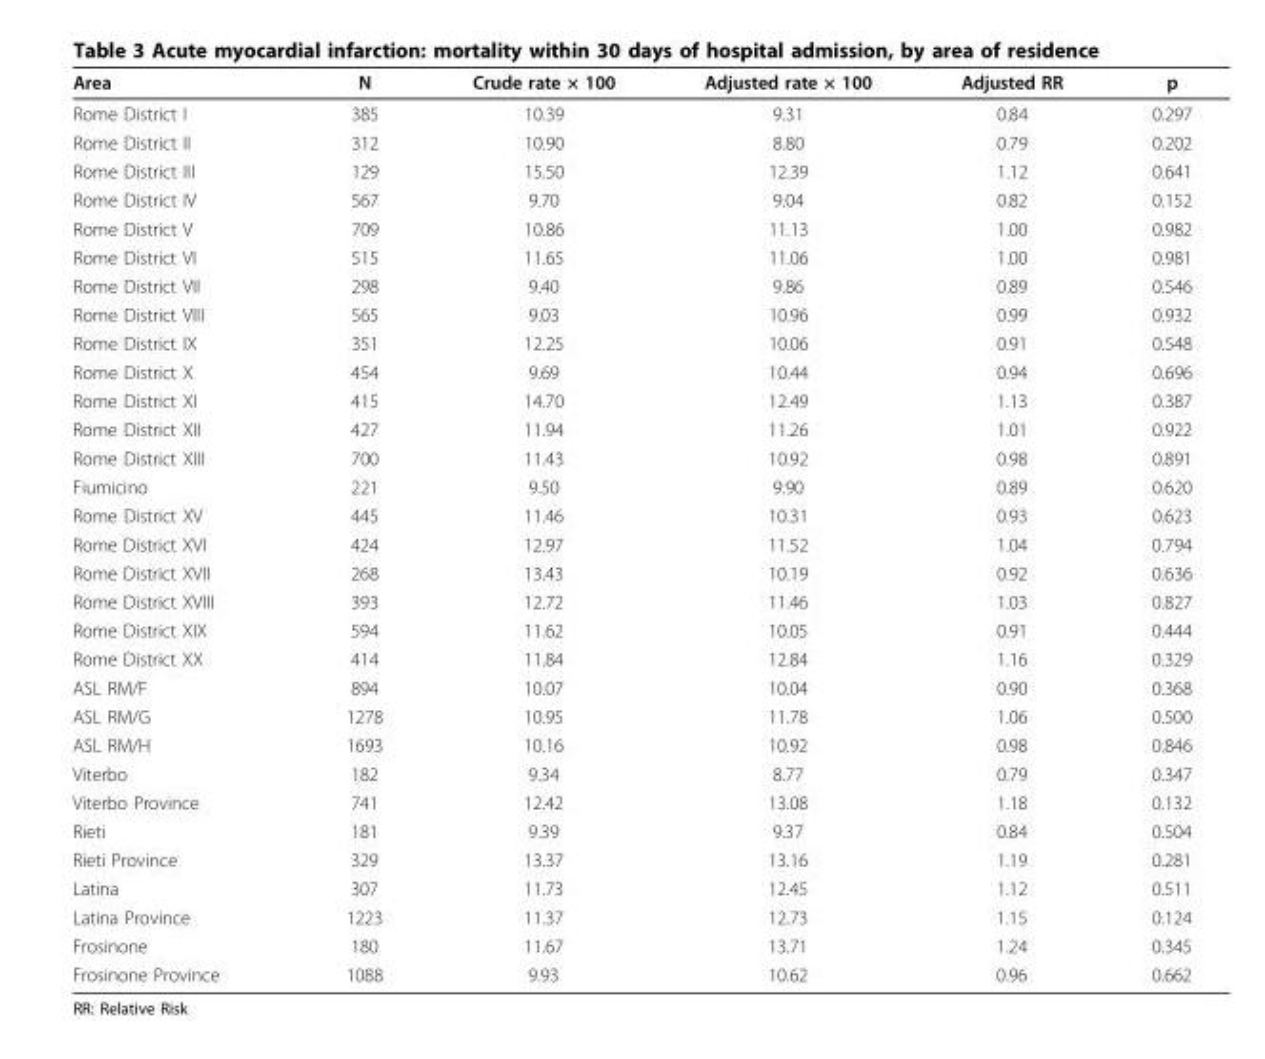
<table><thead><tr><td>Area</td><td>N</td><td>Crude rate × 100</td><td>Adjusted rate × 100</td><td>Adjusted RR</td><td>p</td></tr></thead><tbody><tr><td>Rome District I</td><td>385</td><td>10.39</td><td>9.31</td><td>0.84</td><td>0.297</td></tr><tr><td>Rome District II</td><td>312</td><td>10.90</td><td>8.80</td><td>0.79</td><td>0.202</td></tr><tr><td>Rome District III</td><td>129</td><td>15.50</td><td>12.39</td><td>1.12</td><td>0.641</td></tr><tr><td>Rome District IV</td><td>567</td><td>9.70</td><td>9.04</td><td>0.82</td><td>0.152</td></tr><tr><td>Rome District V</td><td>709</td><td>10.86</td><td>11.13</td><td>1.00</td><td>0.982</td></tr><tr><td>Rome District VI</td><td>515</td><td>11.65</td><td>11.06</td><td>1.00</td><td>0.981</td></tr><tr><td>Rome District VII</td><td>298</td><td>9.40</td><td>9.86</td><td>0.89</td><td>0.546</td></tr><tr><td>Rome District VIII</td><td>565</td><td>9.03</td><td>10.96</td><td>0.99</td><td>0.932</td></tr><tr><td>Rome District IX</td><td>351</td><td>12.25</td><td>10.06</td><td>0.91</td><td>0.548</td></tr><tr><td>Rome District X</td><td>454</td><td>9.69</td><td>10.44</td><td>0.94</td><td>0.696</td></tr><tr><td>Rome District XI</td><td>415</td><td>14.70</td><td>12.49</td><td>1.13</td><td>0.387</td></tr><tr><td>Rome District XII</td><td>427</td><td>11.94</td><td>11.26</td><td>1.01</td><td>0.922</td></tr><tr><td>Rome District XIII</td><td>700</td><td>11.43</td><td>10.92</td><td>0.98</td><td>0.891</td></tr><tr><td>Fiumicino</td><td>221</td><td>9.50</td><td>9.90</td><td>0.89</td><td>0.620</td></tr><tr><td>Rome District XV</td><td>445</td><td>11.46</td><td>10.31</td><td>0.93</td><td>0.623</td></tr><tr><td>Rome District XVI</td><td>424</td><td>12.97</td><td>11.52</td><td>1.04</td><td>0.794</td></tr><tr><td>Rome District XVII</td><td>268</td><td>13.43</td><td>10.19</td><td>0.92</td><td>0.636</td></tr><tr><td>Rome District XVIII</td><td>393</td><td>12.72</td><td>11.46</td><td>1.03</td><td>0.827</td></tr><tr><td>Rome District XIX</td><td>594</td><td>11.62</td><td>10.05</td><td>0.91</td><td>0.444</td></tr><tr><td>Rome District XX</td><td>414</td><td>11.84</td><td>12.84</td><td>1.16</td><td>0.329</td></tr><tr><td>ASL RM/F</td><td>894</td><td>10.07</td><td>10.04</td><td>0.90</td><td>0.368</td></tr><tr><td>ASL RM/G</td><td>1278</td><td>10.95</td><td>11.78</td><td>1.06</td><td>0.500</td></tr><tr><td>ASL RM/H</td><td>1693</td><td>10.16</td><td>10.92</td><td>0.98</td><td>0.846</td></tr><tr><td>Viterbo</td><td>182</td><td>9.34</td><td>8.77</td><td>0.79</td><td>0.347</td></tr><tr><td>Viterbo Province</td><td>741</td><td>12.42</td><td>13.08</td><td>1.18</td><td>0.132</td></tr><tr><td>Rieti</td><td>181</td><td>9.39</td><td>9.37</td><td>0.84</td><td>0.504</td></tr><tr><td>Rieti Province</td><td>329</td><td>13.37</td><td>13.16</td><td>1.19</td><td>0.281</td></tr><tr><td>Latina</td><td>307</td><td>11.73</td><td>12.45</td><td>1.12</td><td>0.511</td></tr><tr><td>Latina Province</td><td>1223</td><td>11.37</td><td>12.73</td><td>1.15</td><td>0.124</td></tr><tr><td>Frosinone</td><td>180</td><td>11.67</td><td>13.71</td><td>1.24</td><td>0.345</td></tr><tr><td>Frosinone Province</td><td>1088</td><td>9.93</td><td>10.62</td><td>0.96</td><td>0.662</td></tr></tbody></table>